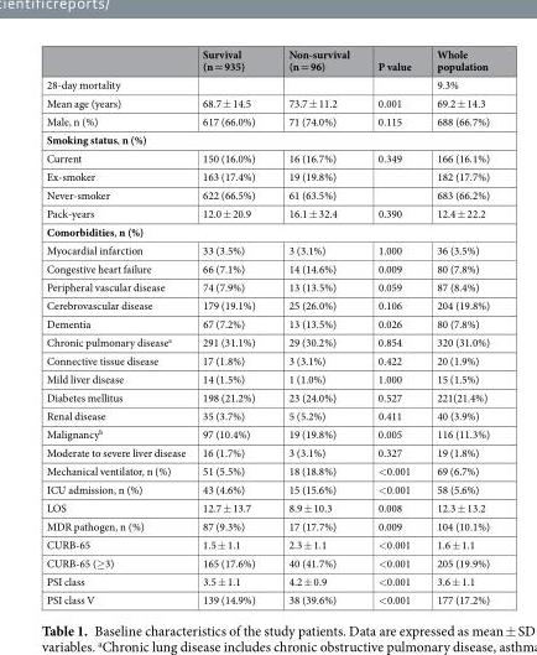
<table><thead><tr><td></td><td>Survival (n = 935)</td><td>Non-survival (n = 96)</td><td>P value</td><td>Whole population</td></tr></thead><tbody><tr><td>28-day mortality</td><td></td><td></td><td></td><td>9.3%</td></tr><tr><td>Mean age (years)</td><td>68.7 ± 14.5</td><td>73.7 ± 11.2</td><td>0.001</td><td>69.2 ± 14.3</td></tr><tr><td>Male, n (%)</td><td>617 (66.0%)</td><td>71 (74.0%)</td><td>0.115</td><td>688 (66.7%)</td></tr><tr><td colspan="5">Smoking status, n (%)</td></tr><tr><td>Current</td><td>150 (16.0%)</td><td>16 (16.7%)</td><td>0.349</td><td>166 (16.1%)</td></tr><tr><td>Ex-smoker</td><td>163 (17.4%)</td><td>19 (19.8%)</td><td></td><td>182 (17.7%)</td></tr><tr><td>Never-smoker</td><td>622 (66.5%)</td><td>61 (63.5%)</td><td></td><td>683 (66.2%)</td></tr><tr><td>Pack-years</td><td>12.0 ± 20.9</td><td>16.1 ± 32.4</td><td>0.390</td><td>12.4 ± 22.2</td></tr><tr><td colspan="5">Comorbidities, n (%)</td></tr><tr><td>Myocardial infarction</td><td>33 (3.5%)</td><td>3 (3.1%)</td><td>1.000</td><td>36 (3.5%)</td></tr><tr><td>Congestive heart failure</td><td>66 (7.1%)</td><td>14 (14.6%)</td><td>0.009</td><td>80 (7.8%)</td></tr><tr><td>Peripheral vascular disease</td><td>74 (7.9%)</td><td>13 (13.5%)</td><td>0.059</td><td>87 (8.4%)</td></tr><tr><td>Cerebrovascular disease</td><td>179 (19.1%)</td><td>25 (26.0%)</td><td>0.106</td><td>204 (19.8%)</td></tr><tr><td>Dementia</td><td>67 (7.2%)</td><td>13 (13.5%)</td><td>0.026</td><td>80 (7.8%)</td></tr><tr><td>Chronic pulmonary disease<sup>a</sup></td><td>291 (31.1%)</td><td>29 (30.2%)</td><td>0.854</td><td>320 (31.0%)</td></tr><tr><td>Connective tissue disease</td><td>17 (1.8%)</td><td>3 (3.1%)</td><td>0.422</td><td>20 (1.9%)</td></tr><tr><td>Mild liver disease</td><td>14 (1.5%)</td><td>1 (1.0%)</td><td>1.000</td><td>15 (1.5%)</td></tr><tr><td>Diabetes mellitus</td><td>198 (21.2%)</td><td>23 (24.0%)</td><td>0.527</td><td>221(21.4%)</td></tr><tr><td>Renal disease</td><td>35 (3.7%)</td><td>5 (5.2%)</td><td>0.411</td><td>40 (3.9%)</td></tr><tr><td>Malignancy<sup>b</sup></td><td>97 (10.4%)</td><td>19 (19.8%)</td><td>0.005</td><td>116 (11.3%)</td></tr><tr><td>Moderate to severe liver disease</td><td>16 (1.7%)</td><td>3 (3.1%)</td><td>0.327</td><td>19 (1.8%)</td></tr><tr><td>Mechanical ventilator, n (%)</td><td>51 (5.5%)</td><td>18 (18.8%)</td><td>&lt;0.001</td><td>69 (6.7%)</td></tr><tr><td>ICU admission, n (%)</td><td>43 (4.6%)</td><td>15 (15.6%)</td><td>&lt;0.001</td><td>58 (5.6%)</td></tr><tr><td>LOS</td><td>12.7 ± 13.7</td><td>8.9 ± 10.3</td><td>0.008</td><td>12.3 ± 13.2</td></tr><tr><td>MDR pathogen, n (%)</td><td>87 (9.3%)</td><td>17 (17.7%)</td><td>0.009</td><td>104 (10.1%)</td></tr><tr><td>CURB-65</td><td>1.5 ± 1.1</td><td>2.3 ± 1.1</td><td>&lt;0.001</td><td>1.6 ± 1.1</td></tr><tr><td>CURB-65 (≥3)</td><td>165 (17.6%)</td><td>40 (41.7%)</td><td>&lt;0.001</td><td>205 (19.9%)</td></tr><tr><td>PSI class</td><td>3.5 ± 1.1</td><td>4.2 ± 0.9</td><td>&lt;0.001</td><td>3.6 ± 1.1</td></tr><tr><td>PSI class V</td><td>139 (14.9%)</td><td>38 (39.6%)</td><td>&lt;0.001</td><td>177 (17.2%)</td></tr></tbody></table>